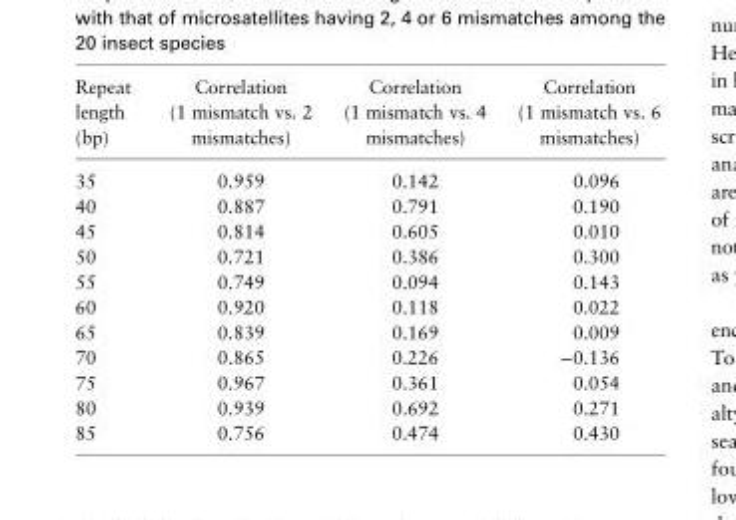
<table><thead><tr><td>Repeat length (bp)</td><td>Correlation (1 mismatch vs. 2 mismatches)</td><td>Correlation (1 mismatch vs. 4 mismatches)</td><td>Correlation (1 mismatch vs. 6 mismatches)</td></tr></thead><tbody><tr><td>35</td><td>0.959</td><td>0.142</td><td>0.096</td></tr><tr><td>40</td><td>0.887</td><td>0.791</td><td>0.190</td></tr><tr><td>45</td><td>0.814</td><td>0.605</td><td>0.010</td></tr><tr><td>50</td><td>0.721</td><td>0.386</td><td>0.300</td></tr><tr><td>55</td><td>0.749</td><td>0.094</td><td>0.143</td></tr><tr><td>60</td><td>0.920</td><td>0.118</td><td>0.022</td></tr><tr><td>65</td><td>0.839</td><td>0.169</td><td>0.009</td></tr><tr><td>70</td><td>0.865</td><td>0.226</td><td>−0.136</td></tr><tr><td>75</td><td>0.967</td><td>0.361</td><td>0.054</td></tr><tr><td>80</td><td>0.939</td><td>0.692</td><td>0.271</td></tr><tr><td>85</td><td>0.756</td><td>0.474</td><td>0.430</td></tr></tbody></table>